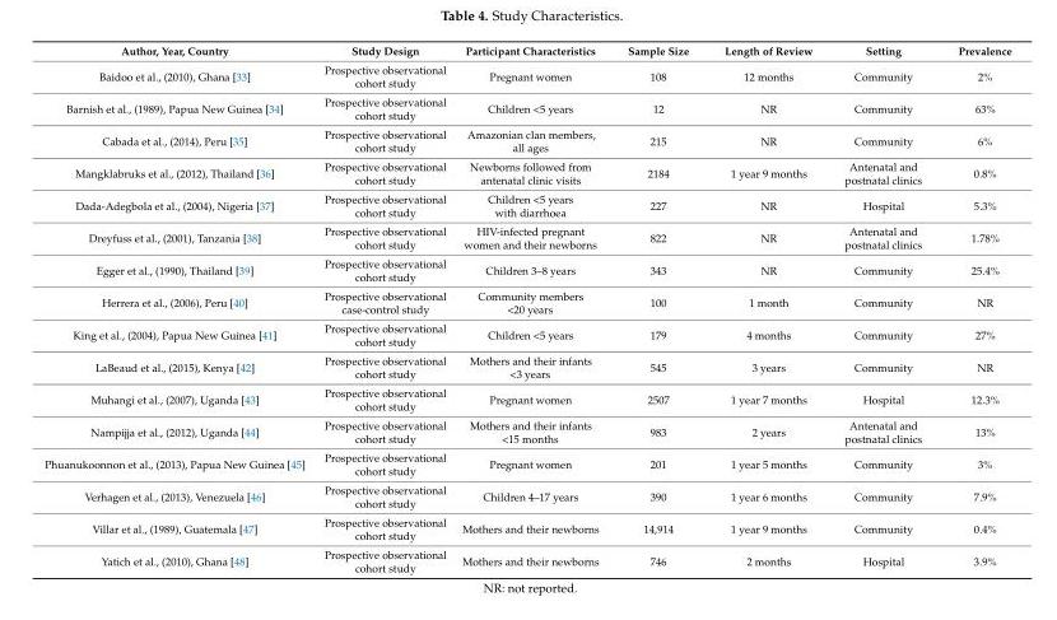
<table><thead><tr><td>Author, Year, Country</td><td>Study Design</td><td>Participant Characteristics</td><td>Sample Size</td><td>Length of Review</td><td>Setting</td><td>Prevalence</td></tr></thead><tbody><tr><td>Baidoo et al., (2010), Ghana [33]</td><td>Prospective observational cohort study</td><td>Pregnant women</td><td>108</td><td>12 months</td><td>Community</td><td>2%</td></tr><tr><td>Barnish et al., (1989), Papua New Guinea [34]</td><td>Prospective observational cohort study</td><td>Children &lt;5 years</td><td>12</td><td>NR</td><td>Community</td><td>63%</td></tr><tr><td>Cabada et al., (2014), Peru [35]</td><td>Prospective observational cohort study</td><td>Amazonian clan members, all ages</td><td>215</td><td>NR</td><td>Community</td><td>6%</td></tr><tr><td>Mangklabruks et al., (2012), Thailand [36]</td><td>Prospective observational cohort study</td><td>Newborns followed from antenatal clinic visits</td><td>2184</td><td>1 year 9 months</td><td>Antenatal and postnatal clinics</td><td>0.8%</td></tr><tr><td>Dada-Adegbola et al., (2004), Nigeria [37]</td><td>Prospective observational cohort study</td><td>Children &lt;5 years with diarrhoea</td><td>227</td><td>NR</td><td>Hospital</td><td>5.3%</td></tr><tr><td>Dreyfuss et al., (2001), Tanzania [38]</td><td>Prospective observational cohort study</td><td>HIV-infected pregnant women and their newborns</td><td>822</td><td>NR</td><td>Antenatal and postnatal clinics</td><td>1.78%</td></tr><tr><td>Egger et al., (1990), Thailand [39]</td><td>Prospective observational cohort study</td><td>Children 3–8 years</td><td>343</td><td>NR</td><td>Community</td><td>25.4%</td></tr><tr><td>Herrera et al., (2006), Peru [40]</td><td>Prospective observational case-control study</td><td>Community members &lt;20 years</td><td>100</td><td>1 month</td><td>Community</td><td>NR</td></tr><tr><td>King et al., (2004), Papua New Guinea [41]</td><td>Prospective observational cohort study</td><td>Children &lt;5 years</td><td>179</td><td>4 months</td><td>Community</td><td>27%</td></tr><tr><td>LaBeaud et al., (2015), Kenya [42]</td><td>Prospective observational cohort study</td><td>Mothers and their infants &lt;3 years</td><td>545</td><td>3 years</td><td>Community</td><td>NR</td></tr><tr><td>Muhangi et al., (2007), Uganda [43]</td><td>Prospective observational cohort study</td><td>Pregnant women</td><td>2507</td><td>1 year 7 months</td><td>Hospital</td><td>12.3%</td></tr><tr><td>Nampijja et al., (2012), Uganda [44]</td><td>Prospective observational cohort study</td><td>Mothers and their infants &lt;15 months</td><td>983</td><td>2 years</td><td>Antenatal and postnatal clinics</td><td>13%</td></tr><tr><td>Phuanukoonnon et al., (2013), Papua New Guinea [45]</td><td>Prospective observational cohort study</td><td>Pregnant women</td><td>201</td><td>1 year 5 months</td><td>Community</td><td>3%</td></tr><tr><td>Verhagen et al., (2013), Venezuela [46]</td><td>Prospective observational cohort study</td><td>Children 4–17 years</td><td>390</td><td>1 year 6 months</td><td>Community</td><td>7.9%</td></tr><tr><td>Villar et al., (1989), Guatemala [47]</td><td>Prospective observational cohort study</td><td>Mothers and their newborns</td><td>14,914</td><td>1 year 9 months</td><td>Community</td><td>0.4%</td></tr><tr><td>Yatich et al., (2010), Ghana [48]</td><td>Prospective observational cohort study</td><td>Mothers and their newborns</td><td>746</td><td>2 months</td><td>Hospital</td><td>3.9%</td></tr></tbody></table>